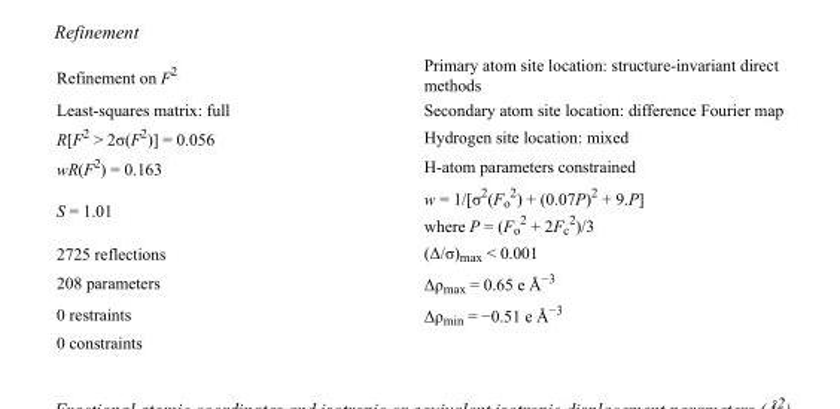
<table><tbody><tr><td>Refinement on F<sup>2</sup></td><td>Primary atom site location: structure-invariant direct methods</td></tr><tr><td>Least-squares matrix: full</td><td>Secondary atom site location: difference Fourier map</td></tr><tr><td>R[F<sup>2</sup> &gt; 2σ(F<sup>2</sup>)] = 0.056</td><td>Hydrogen site location: mixed</td></tr><tr><td>wR(F<sup>2</sup>) = 0.163</td><td>H-atom parameters constrained</td></tr><tr><td>S = 1.01</td><td>w = 1/[σ<sup>2</sup>(F<sub>o</sub> <sup>2</sup>) + (0.07P)<sup>2</sup> + 9.P] where P = (F<sub>o</sub> <sup>2</sup> + 2F<sub>c</sub> <sup>2</sup>)/3</td></tr><tr><td>2725 reflections</td><td>(Δ/σ)<sub>max</sub> &lt; 0.001</td></tr><tr><td>208 parameters</td><td>Δρ<sub>max</sub> = 0.65 e Å<sup>−3</sup></td></tr><tr><td>0 restraints</td><td>Δρ<sub>min</sub> = −0.51 e Å<sup>−3</sup></td></tr><tr><td>0 constraints</td><td></td></tr></tbody></table>